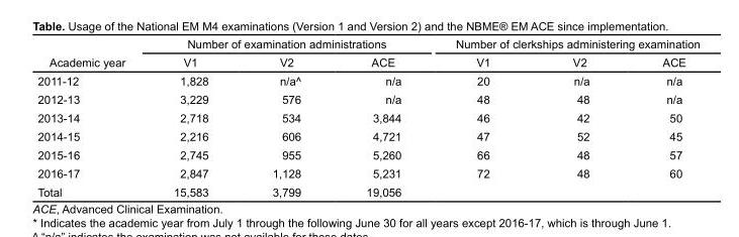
<table><thead><tr><td rowspan="2">Academic year</td><td colspan="3">Number of examination administrations</td><td colspan="3">Number of clerkships administering examination</td></tr><tr><td>V1</td><td>V2</td><td>ACE</td><td>V1</td><td>V2</td><td>ACE</td></tr></thead><tbody><tr><td>2011-12</td><td>1,828</td><td>n/a^</td><td>n/a</td><td>20</td><td>n/a</td><td>n/a</td></tr><tr><td>2012-13</td><td>3,229</td><td>576</td><td>n/a</td><td>48</td><td>48</td><td>n/a</td></tr><tr><td>2013-14</td><td>2,718</td><td>534</td><td>3,844</td><td>46</td><td>42</td><td>50</td></tr><tr><td>2014-15</td><td>2,216</td><td>606</td><td>4,721</td><td>47</td><td>52</td><td>45</td></tr><tr><td>2015-16</td><td>2,745</td><td>955</td><td>5,260</td><td>66</td><td>48</td><td>57</td></tr><tr><td>2016-17</td><td>2,847</td><td>1,128</td><td>5,231</td><td>72</td><td>48</td><td>60</td></tr><tr><td>Total</td><td>15,583</td><td>3,799</td><td>19,056</td><td></td><td></td><td></td></tr></tbody></table>